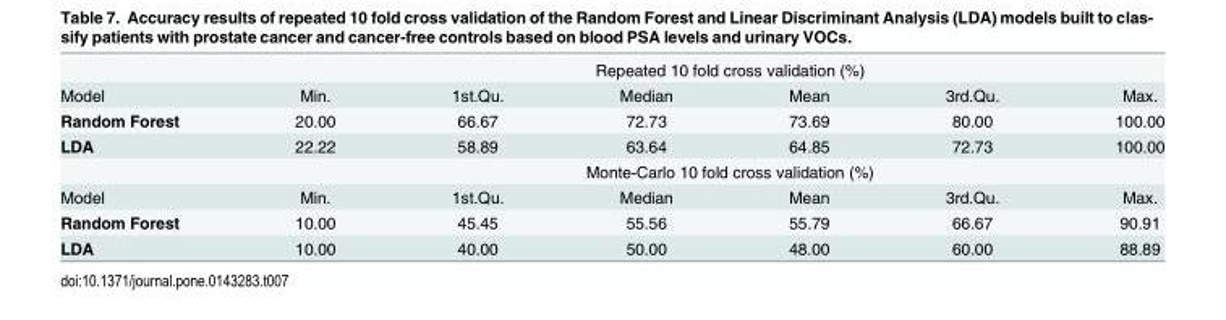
<table><thead><tr><td rowspan="2">Model</td><td colspan="6">Repeated 10 fold cross validation (%)</td></tr><tr><td>Min.</td><td>1st.Qu.</td><td>Median</td><td>Mean</td><td>3rd.Qu.</td><td>Max.</td></tr></thead><tbody><tr><td>Random Forest</td><td>20.00</td><td>66.67</td><td>72.73</td><td>73.69</td><td>80.00</td><td>100.00</td></tr><tr><td rowspan="2">LDA</td><td>22.22</td><td>58.89</td><td>63.64</td><td>64.85</td><td>72.73</td><td>100.00</td></tr><tr><td colspan="6">Monte-Carlo 10 fold cross validation (%)</td></tr><tr><td>Model</td><td>Min.</td><td>1st.Qu.</td><td>Median</td><td>Mean</td><td>3rd.Qu.</td><td>Max.</td></tr><tr><td>Random Forest</td><td>10.00</td><td>45.45</td><td>55.56</td><td>55.79</td><td>66.67</td><td>90.91</td></tr><tr><td>LDA</td><td>10.00</td><td>40.00</td><td>50.00</td><td>48.00</td><td>60.00</td><td>88.89</td></tr></tbody></table>